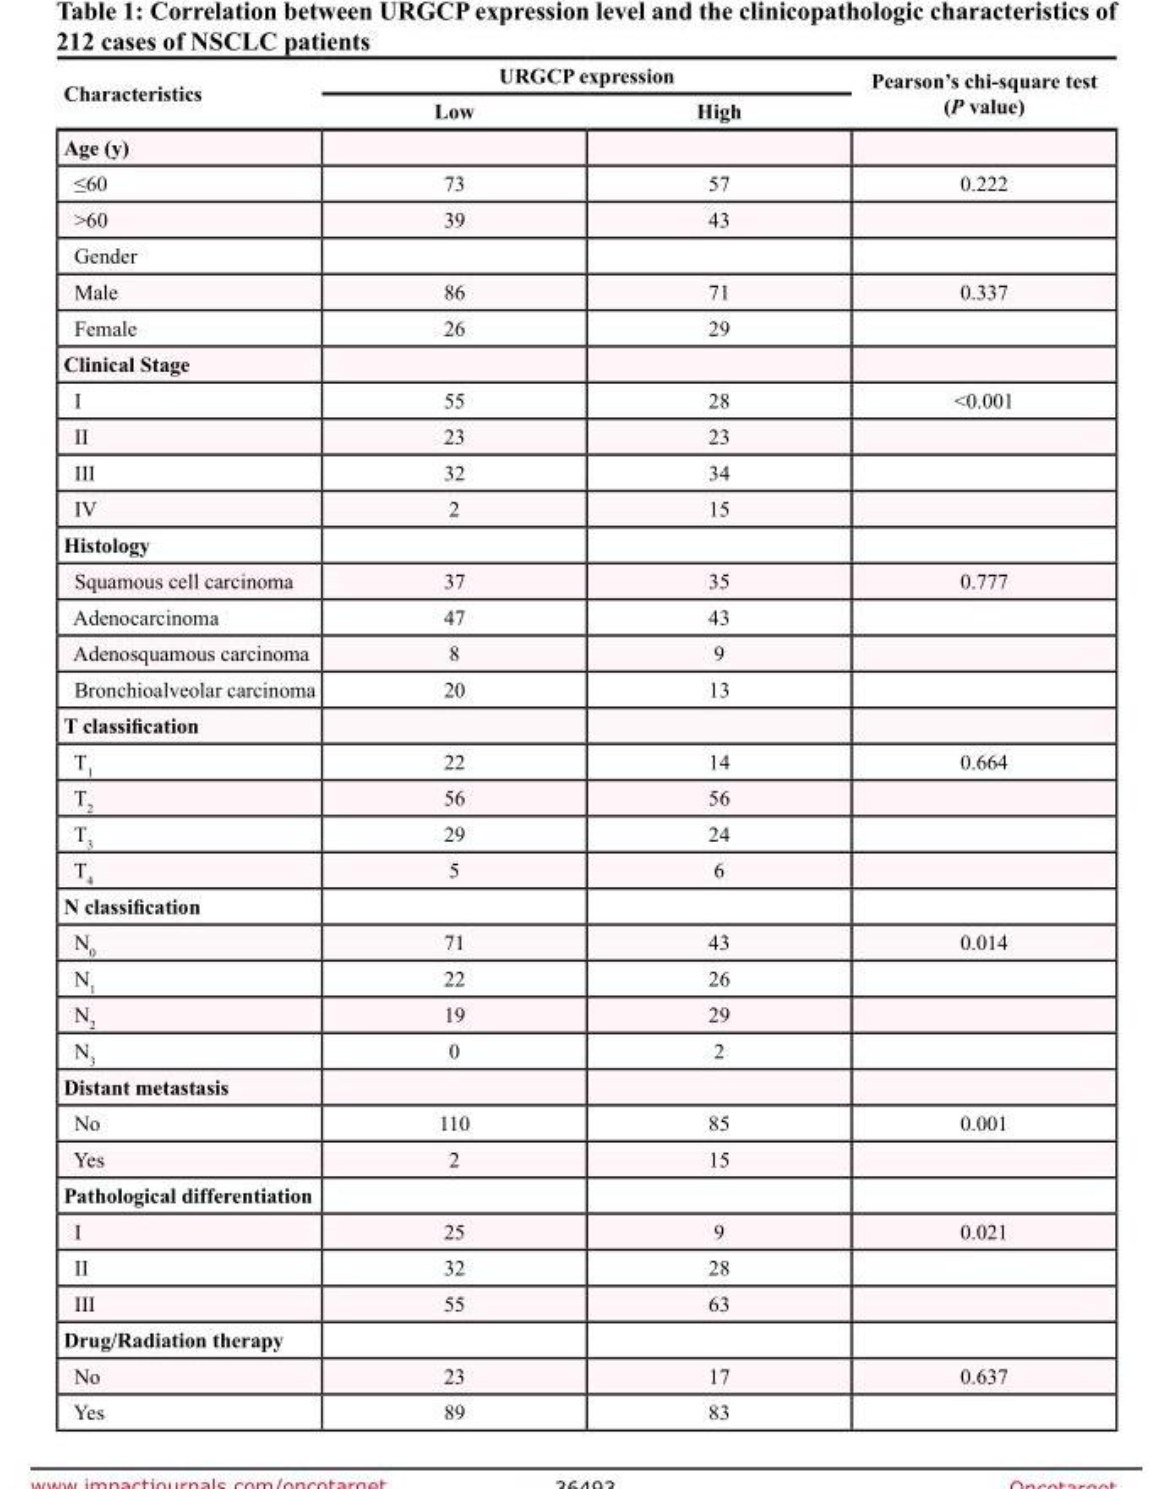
<table><thead><tr><td rowspan="2">Characteristics</td><td colspan="2">URGCP expression</td><td rowspan="2">Pearson’s chi-square test (P value)</td></tr><tr><td>Low</td><td>High</td></tr></thead><tbody><tr><td colspan="4">Age (y)</td></tr><tr><td>≤60</td><td>73</td><td>57</td><td>0.222</td></tr><tr><td>&gt;60</td><td>39</td><td>43</td><td></td></tr><tr><td colspan="4">Gender</td></tr><tr><td>Male</td><td>86</td><td>71</td><td>0.337</td></tr><tr><td>Female</td><td>26</td><td>29</td><td></td></tr><tr><td colspan="4">Clinical Stage</td></tr><tr><td>I</td><td>55</td><td>28</td><td>&lt;0.001</td></tr><tr><td>II</td><td>23</td><td>23</td><td></td></tr><tr><td>III</td><td>32</td><td>34</td><td></td></tr><tr><td>IV</td><td>2</td><td>15</td><td></td></tr><tr><td colspan="4">Histology</td></tr><tr><td>Squamous cell carcinoma</td><td>37</td><td>35</td><td>0.777</td></tr><tr><td>Adenocarcinoma</td><td>47</td><td>43</td><td></td></tr><tr><td>Adenosquamous carcinoma</td><td>8</td><td>9</td><td></td></tr><tr><td>Bronchioalveolar carcinoma</td><td>20</td><td>13</td><td></td></tr><tr><td colspan="4">T classification</td></tr><tr><td>T<sub>1</sub></td><td>22</td><td>14</td><td>0.664</td></tr><tr><td>T<sub>2</sub></td><td>56</td><td>56</td><td></td></tr><tr><td>T<sub>3</sub></td><td>29</td><td>24</td><td></td></tr><tr><td>T<sub>4</sub></td><td>5</td><td>6</td><td></td></tr><tr><td colspan="4">N classification</td></tr><tr><td>N<sub>0</sub></td><td>71</td><td>43</td><td>0.014</td></tr><tr><td>N<sub>1</sub></td><td>22</td><td>26</td><td></td></tr><tr><td>N<sub>2</sub></td><td>19</td><td>29</td><td></td></tr><tr><td>N<sub>3</sub></td><td>0</td><td>2</td><td></td></tr><tr><td colspan="4">Distant metastasis</td></tr><tr><td>No</td><td>110</td><td>85</td><td>0.001</td></tr><tr><td>Yes</td><td>2</td><td>15</td><td></td></tr><tr><td colspan="4">Pathological differentiation</td></tr><tr><td>I</td><td>25</td><td>9</td><td>0.021</td></tr><tr><td>II</td><td>32</td><td>28</td><td></td></tr><tr><td>III</td><td>55</td><td>63</td><td></td></tr><tr><td colspan="4">Drug/Radiation therapy</td></tr><tr><td>No</td><td>23</td><td>17</td><td>0.637</td></tr><tr><td>Yes</td><td>89</td><td>83</td><td></td></tr></tbody></table>